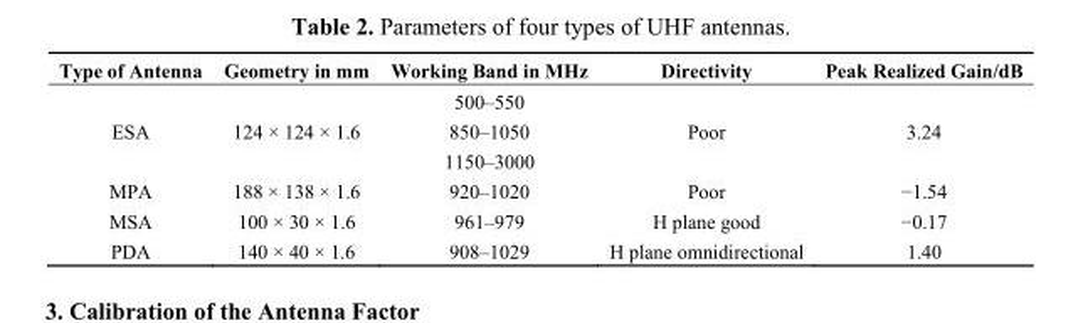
<table><thead><tr><td>Type of Antenna</td><td>Geometry in mm</td><td>Working Band in MHz</td><td>Directivity</td><td>Peak Realized Gain/dB</td></tr></thead><tbody><tr><td rowspan="3">ESA</td><td rowspan="3">124 × 124 × 1.6</td><td>500–550</td><td rowspan="3">Poor</td><td rowspan="3">3.24</td></tr><tr><td>850–1050</td></tr><tr><td>1150–3000</td></tr><tr><td>MPA</td><td>188 × 138 × 1.6</td><td>920–1020</td><td>Poor</td><td>−1.54</td></tr><tr><td>MSA</td><td>100 × 30 × 1.6</td><td>961–979</td><td>H plane good</td><td>−0.17</td></tr><tr><td>PDA</td><td>140 × 40 × 1.6</td><td>908–1029</td><td>H plane omnidirectional</td><td>1.40</td></tr></tbody></table>